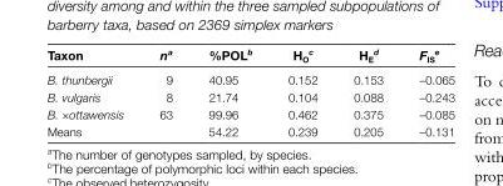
<table><thead><tr><td>Taxon</td><td>n<sup>a</sup></td><td>%POL<sup>b</sup></td><td>H<sub>O</sub> <sup>c</sup></td><td>H<sub>E</sub> <sup>d</sup></td><td>F<sub>IS</sub> <sup>e</sup></td></tr></thead><tbody><tr><td>B. thunbergii</td><td>9</td><td>40.95</td><td>0.152</td><td>0.153</td><td>–0.065</td></tr><tr><td>B. vulgaris</td><td>8</td><td>21.74</td><td>0.104</td><td>0.088</td><td>–0.243</td></tr><tr><td>B. ×ottawensis</td><td>63</td><td>99.96</td><td>0.462</td><td>0.375</td><td>–0.085</td></tr><tr><td>Means</td><td></td><td>54.22</td><td>0.239</td><td>0.205</td><td>–0.131</td></tr></tbody></table>